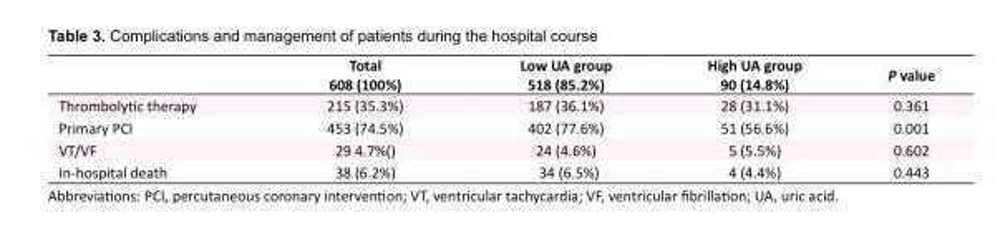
<table><thead><tr><td></td><td>Total 608 (100%)</td><td>Low UA group 518 (85.2%)</td><td>High UA group 90 (14.8%)</td><td>P value</td></tr></thead><tbody><tr><td>Thrombolytic therapy</td><td>215 (35.3%)</td><td>187 (36.1%)</td><td>28 (31.1%)</td><td>0.361</td></tr><tr><td>Primary PCI</td><td>453 (74.5%)</td><td>402 (77.6%)</td><td>51 (56.6%)</td><td>0.001</td></tr><tr><td>VT/VF</td><td>29 4.7%()</td><td>24 (4.6%)</td><td>5 (5.5%)</td><td>0.602</td></tr><tr><td>In-hospital death</td><td>38 (6.2%)</td><td>34 (6.5%)</td><td>4 (4.4%)</td><td>0.443</td></tr></tbody></table>